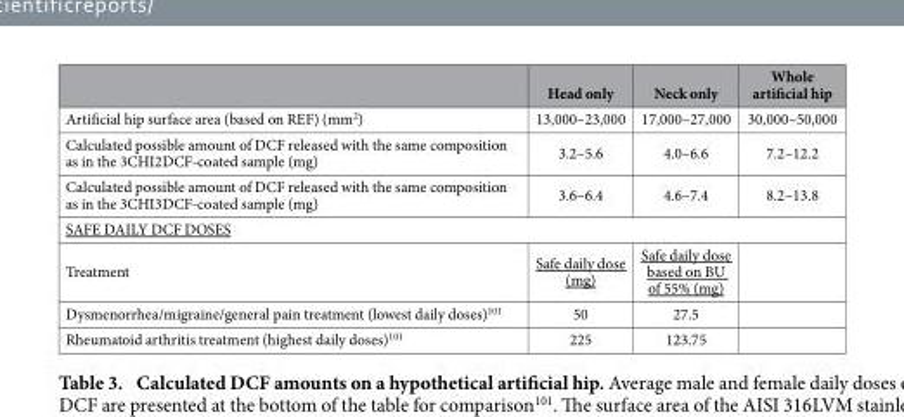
<table><thead><tr><td></td><td>Head only</td><td>Neck only</td><td>Whole artificial hip</td></tr></thead><tbody><tr><td>Artificial hip surface area (based on REF) (mm<sup>2</sup>)</td><td>13,000–23,000</td><td>17,000–27,000</td><td>30,000–50,000</td></tr><tr><td>Calculated possible amount of DCF released with the same composition as in the 3CHI2DCF-coated sample (mg)</td><td>3.2–5.6</td><td>4.0–6.6</td><td>7.2–12.2</td></tr><tr><td>Calculated possible amount of DCF released with the same composition as in the 3CHI3DCF-coated sample (mg)</td><td>3.6–6.4</td><td>4.6–7.4</td><td>8.2–13.8</td></tr><tr><td colspan="4">SAFE DAILY DCF DOSES</td></tr><tr><td>Treatment</td><td>Safe daily dose (mg)</td><td>Safe daily dose based on BU of 55% (mg)</td><td></td></tr><tr><td>Dysmenorrhea/migraine/general pain treatment (lowest daily doses)<sup>101</sup></td><td>50</td><td>27.5</td><td></td></tr><tr><td>Rheumatoid arthritis treatment (highest daily doses)<sup>101</sup></td><td>225</td><td>123.75</td><td></td></tr></tbody></table>